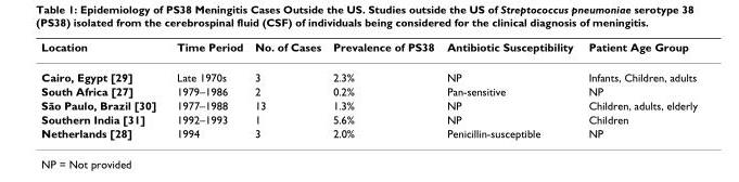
<table><thead><tr><td>Location</td><td>Time Period</td><td>No. of Cases</td><td>Prevalence of PS38</td><td>Antibiotic Susceptibility</td><td>Patient Age Group</td></tr></thead><tbody><tr><td>Cairo, Egypt [29]</td><td>Late 1970s</td><td>3</td><td>2.3%</td><td>NP</td><td>Infants, Children, adults</td></tr><tr><td>South Africa [27]</td><td>1979–1986</td><td>2</td><td>0.2%</td><td>Pan-sensitive</td><td>NP</td></tr><tr><td>São Paulo, Brazil [30]</td><td>1977–1988</td><td>13</td><td>1.3%</td><td>NP</td><td>Children, adults, elderly</td></tr><tr><td>Southern India [31]</td><td>1992–1993</td><td>1</td><td>5.6%</td><td>NP</td><td>Children</td></tr><tr><td>Netherlands [28]</td><td>1994</td><td>3</td><td>2.0%</td><td>Penicillin-susceptible</td><td>NP</td></tr></tbody></table>